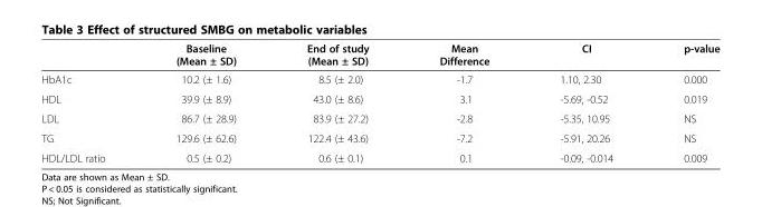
<table><thead><tr><td></td><td>Baseline (Mean ± SD)</td><td>End of study (Mean ± SD)</td><td>Mean Difference</td><td>CI</td><td>p-value</td></tr></thead><tbody><tr><td>HbA1c</td><td>10.2 (± 1.6)</td><td>8.5 (± 2.0)</td><td>-1.7</td><td>1.10, 2.30</td><td>0.000</td></tr><tr><td>HDL</td><td>39.9 (± 8.9)</td><td>43.0 (± 8.6)</td><td>3.1</td><td>-5.69, -0.52</td><td>0.019</td></tr><tr><td>LDL</td><td>86.7 (± 28.9)</td><td>83.9 (± 27.2)</td><td>-2.8</td><td>-5.35, 10.95</td><td>NS</td></tr><tr><td>TG</td><td>129.6 (± 62.6)</td><td>122.4 (± 43.6)</td><td>-7.2</td><td>-5.91, 20.26</td><td>NS</td></tr><tr><td>HDL/LDL ratio</td><td>0.5 (± 0.2)</td><td>0.6 (± 0.1)</td><td>0.1</td><td>-0.09, -0.014</td><td>0.009</td></tr></tbody></table>